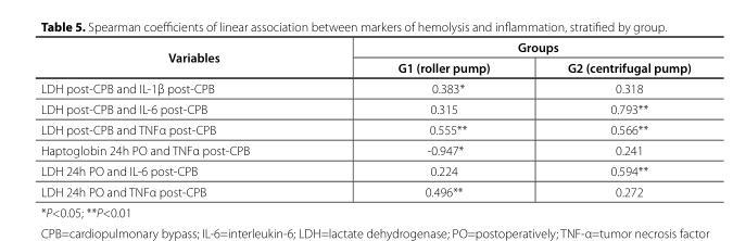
<table><thead><tr><td rowspan="2">Variables</td><td colspan="2">Groups</td></tr><tr><td>G1 (roller pump)</td><td>G2 (centrifugal pump)</td></tr></thead><tbody><tr><td>LDH post-CPB and IL-1β post-CPB</td><td>0.383*</td><td>0.318</td></tr><tr><td>LDH post-CPB and IL-6 post-CPB</td><td>0.315</td><td>0.793**</td></tr><tr><td>LDH post-CPB and TNFα post-CPB</td><td>0.555**</td><td>0.566**</td></tr><tr><td>Haptoglobin 24h PO and TNFα post-CPB</td><td>-0.947*</td><td>0.241</td></tr><tr><td>LDH 24h PO and IL-6 post-CPB</td><td>0.224</td><td>0.594**</td></tr><tr><td>LDH 24h PO and TNFα post-CPB</td><td>0.496**</td><td>0.272</td></tr></tbody></table>